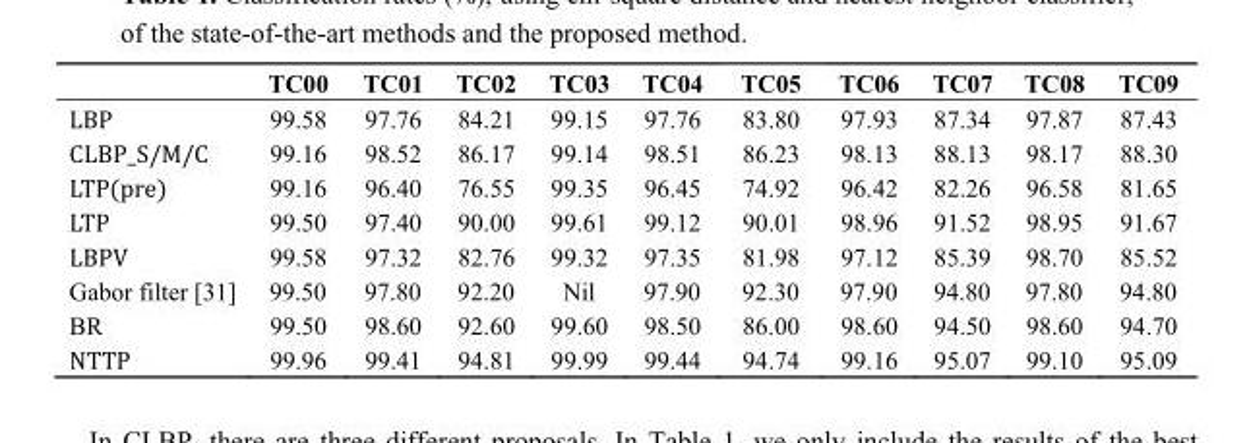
<table><thead><tr><td></td><td>TC00</td><td>TC01</td><td>TC02</td><td>TC03</td><td>TC04</td><td>TC05</td><td>TC06</td><td>TC07</td><td>TC08</td><td>TC09</td></tr></thead><tbody><tr><td>LBP</td><td>99.58</td><td>97.76</td><td>84.21</td><td>99.15</td><td>97.76</td><td>83.80</td><td>97.93</td><td>87.34</td><td>97.87</td><td>87.43</td></tr><tr><td>CLBP_S/M/C</td><td>99.16</td><td>98.52</td><td>86.17</td><td>99.14</td><td>98.51</td><td>86.23</td><td>98.13</td><td>88.13</td><td>98.17</td><td>88.30</td></tr><tr><td>LTP(pre)</td><td>99.16</td><td>96.40</td><td>76.55</td><td>99.35</td><td>96.45</td><td>74.92</td><td>96.42</td><td>82.26</td><td>96.58</td><td>81.65</td></tr><tr><td>LTP</td><td>99.50</td><td>97.40</td><td>90.00</td><td>99.61</td><td>99.12</td><td>90.01</td><td>98.96</td><td>91.52</td><td>98.95</td><td>91.67</td></tr><tr><td>LBPV</td><td>99.58</td><td>97.32</td><td>82.76</td><td>99.32</td><td>97.35</td><td>81.98</td><td>97.12</td><td>85.39</td><td>98.70</td><td>85.52</td></tr><tr><td>Gabor filter [31]</td><td>99.50</td><td>97.80</td><td>92.20</td><td>Nil</td><td>97.90</td><td>92.30</td><td>97.90</td><td>94.80</td><td>97.80</td><td>94.80</td></tr><tr><td>BR</td><td>99.50</td><td>98.60</td><td>92.60</td><td>99.60</td><td>98.50</td><td>86.00</td><td>98.60</td><td>94.50</td><td>98.60</td><td>94.70</td></tr><tr><td>NTTP</td><td>99.96</td><td>99.41</td><td>94.81</td><td>99.99</td><td>99.44</td><td>94.74</td><td>99.16</td><td>95.07</td><td>99.10</td><td>95.09</td></tr></tbody></table>